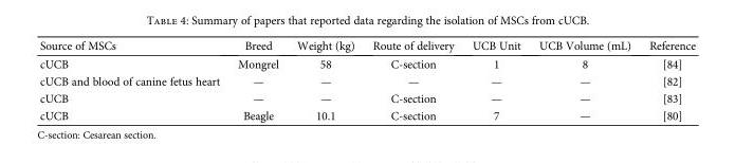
<table><thead><tr><td>Source of MSCs</td><td>Breed</td><td>Weight (kg)</td><td>Route of delivery</td><td>UCB Unit</td><td>UCB Volume (mL)</td><td>Reference</td></tr></thead><tbody><tr><td>cUCB</td><td>Mongrel</td><td>58</td><td>C-section</td><td>1</td><td>8</td><td>[84]</td></tr><tr><td>cUCB and blood of canine fetus heart</td><td>—</td><td>—</td><td>—</td><td>—</td><td>—</td><td>[82]</td></tr><tr><td>cUCB</td><td>—</td><td>—</td><td>C-section</td><td>—</td><td>—</td><td>[83]</td></tr><tr><td>cUCB</td><td>Beagle</td><td>10.1</td><td>C-section</td><td>7</td><td>—</td><td>[80]</td></tr></tbody></table>